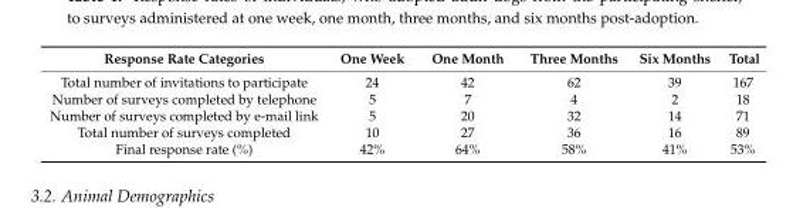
<table><thead><tr><td>Response Rate Categories</td><td>One Week</td><td>One Month</td><td>Three Months</td><td>Six Months</td><td>Total</td></tr></thead><tbody><tr><td>Total number of invitations to participate</td><td>24</td><td>42</td><td>62</td><td>39</td><td>167</td></tr><tr><td>Number of surveys completed by telephone</td><td>5</td><td>7</td><td>4</td><td>2</td><td>18</td></tr><tr><td>Number of surveys completed by e-mail link</td><td>5</td><td>20</td><td>32</td><td>14</td><td>71</td></tr><tr><td>Total number of surveys completed</td><td>10</td><td>27</td><td>36</td><td>16</td><td>89</td></tr><tr><td>Final response rate (%)</td><td>42%</td><td>64%</td><td>58%</td><td>41%</td><td>53%</td></tr></tbody></table>